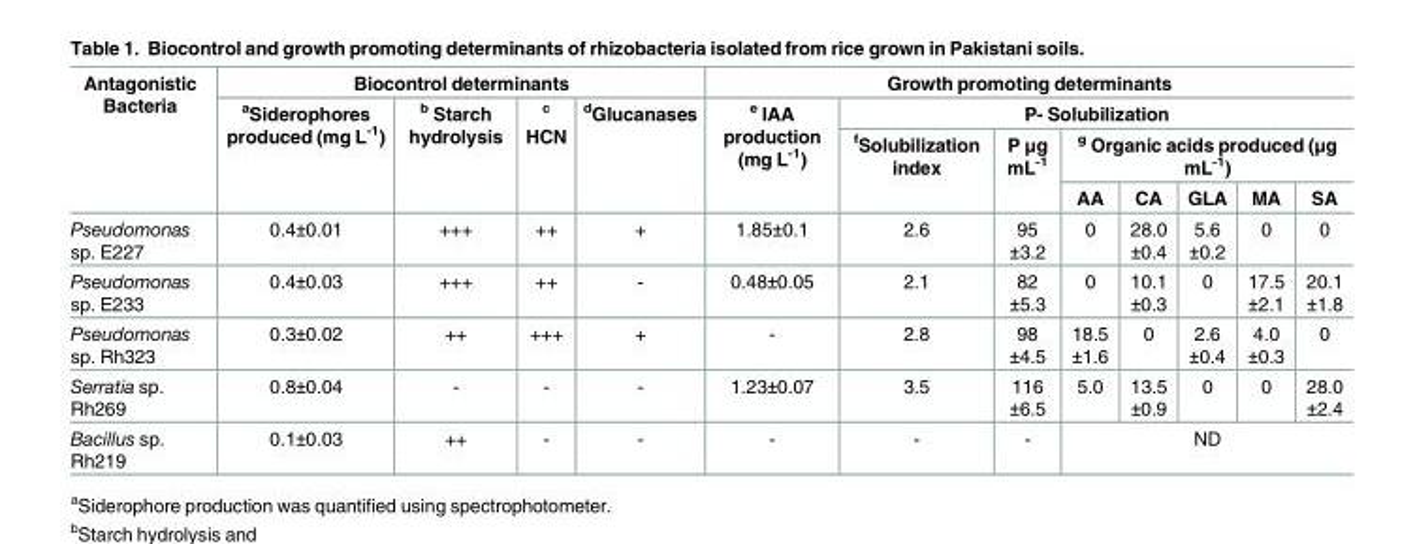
<table><thead><tr><td rowspan="4">Antagonistic Bacteria</td><td colspan="4">Biocontrol determinants</td><td colspan="8">Growth promoting determinants</td></tr><tr><td rowspan="3"><sup>a</sup>Siderophores produced (mg L<sup>-1</sup>)</td><td rowspan="3"><sup>b</sup> Starch hydrolysis</td><td rowspan="3"><sup>c</sup> HCN</td><td rowspan="3"><sup>d</sup>Glucanases</td><td rowspan="3"><sup>e</sup> IAA production (mg L<sup>-1</sup>)</td><td colspan="7">P- Solubilization</td></tr><tr><td rowspan="2"><sup>f</sup>Solubilization index</td><td rowspan="2">P μg mL<sup>-1</sup></td><td colspan="5"><sup>g</sup> Organic acids produced (μg mL<sup>-1</sup>)</td></tr><tr><td>AA</td><td>CA</td><td>GLA</td><td>MA</td><td>SA</td></tr></thead><tbody><tr><td>Pseudomonas sp. E227</td><td>0.4±0.01</td><td>+++</td><td>++</td><td>+</td><td>1.85±0.1</td><td>2.6</td><td>95 ±3.2</td><td>0</td><td>28.0 ±0.4</td><td>5.6 ±0.2</td><td>0</td><td>0</td></tr><tr><td>Pseudomonas sp. E233</td><td>0.4±0.03</td><td>+++</td><td>++</td><td>-</td><td>0.48±0.05</td><td>2.1</td><td>82 ±5.3</td><td>0</td><td>10.1 ±0.3</td><td>0</td><td>17.5 ±2.1</td><td>20.1 ±1.8</td></tr><tr><td>Pseudomonas sp. Rh323</td><td>0.3±0.02</td><td>++</td><td>+++</td><td>+</td><td>-</td><td>2.8</td><td>98 ±4.5</td><td>18.5 ±1.6</td><td>0</td><td>2.6 ±0.4</td><td>4.0 ±0.3</td><td>0</td></tr><tr><td>Serratia sp. Rh269</td><td>0.8±0.04</td><td>-</td><td>-</td><td>-</td><td>1.23±0.07</td><td>3.5</td><td>116 ±6.5</td><td>5.0</td><td>13.5 ±0.9</td><td>0</td><td>0</td><td>28.0 ±2.4</td></tr><tr><td>Bacillus sp. Rh219</td><td>0.1±0.03</td><td>++</td><td>-</td><td>-</td><td>-</td><td>-</td><td>-</td><td colspan="5">ND</td></tr></tbody></table>